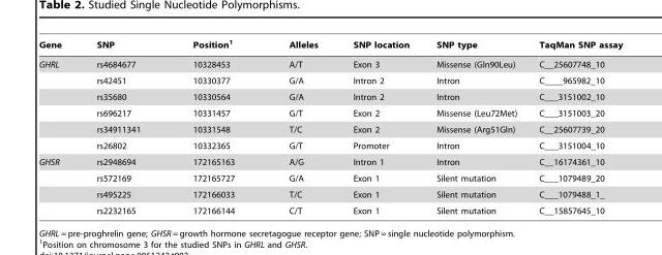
<table><thead><tr><td>Gene</td><td>SNP</td><td>Position<sup>1</sup></td><td>Alleles</td><td>SNP location</td><td>SNP type</td><td>TaqMan SNP assay</td></tr></thead><tbody><tr><td rowspan="6">GHRL</td><td>rs4684677</td><td>10328453</td><td>A/T</td><td>Exon 3</td><td>Missense (Gln90Leu)</td><td>C__25607748_10</td></tr><tr><td>rs42451</td><td>10330377</td><td>G/A</td><td>Intron 2</td><td>Intron</td><td>C____965982_10</td></tr><tr><td>rs35680</td><td>10330564</td><td>G/A</td><td>Intron 2</td><td>Intron</td><td>C___3151002_10</td></tr><tr><td>rs696217</td><td>10331457</td><td>G/T</td><td>Exon 2</td><td>Missense (Leu72Met)</td><td>C___3151003_20</td></tr><tr><td>rs34911341</td><td>10331548</td><td>T/C</td><td>Exon 2</td><td>Missense (Arg51Gln)</td><td>C__25607739_20</td></tr><tr><td>rs26802</td><td>10332365</td><td>G/T</td><td>Promoter</td><td>Intron</td><td>C___3151004_10</td></tr><tr><td rowspan="4">GHSR</td><td>rs2948694</td><td>172165163</td><td>A/G</td><td>Intron 1</td><td>Intron</td><td>C__16174361_10</td></tr><tr><td>rs572169</td><td>172165727</td><td>G/A</td><td>Exon 1</td><td>Silent mutation</td><td>C___1079489_20</td></tr><tr><td>rs495225</td><td>172166033</td><td>T/C</td><td>Exon 1</td><td>Silent mutation</td><td>C___1079488_1_</td></tr><tr><td>rs2232165</td><td>172166144</td><td>C/T</td><td>Exon 1</td><td>Silent mutation</td><td>C__15857645_10</td></tr></tbody></table>